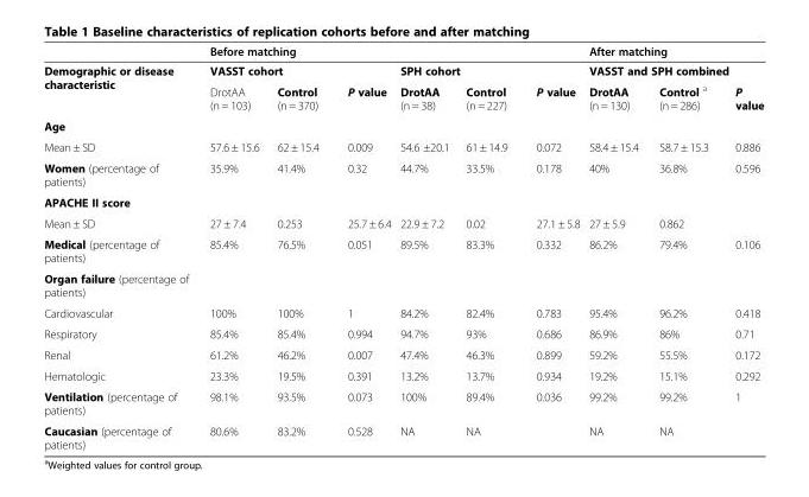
<table><thead><tr><td rowspan="3">Demographic or disease characteristic</td><td colspan="6">Before matching</td><td rowspan="2" colspan="3">After matching VASST and SPH combined</td></tr><tr><td colspan="3">VASST cohort</td><td colspan="3">SPH cohort</td></tr><tr><td>DrotAA (n = 103)</td><td>Control (n = 370)</td><td>P value</td><td>DrotAA (n = 38)</td><td>Control (n = 227)</td><td>P value</td><td>DrotAA (n = 130)</td><td>Control <sup>a</sup> (n = 286)</td><td>P value</td></tr></thead><tbody><tr><td colspan="10">Age</td></tr><tr><td>Mean ± SD</td><td>57.6 ± 15.6</td><td>62 ± 15.4</td><td>0.009</td><td>54.6 ±20.1</td><td>61 ± 14.9</td><td>0.072</td><td>58.4 ± 15.4</td><td>58.7 ± 15.3</td><td>0.886</td></tr><tr><td>Women (percentage of patients)</td><td>35.9%</td><td>41.4%</td><td>0.32</td><td>44.7%</td><td>33.5%</td><td>0.178</td><td>40%</td><td>36.8%</td><td>0.596</td></tr><tr><td colspan="10">APACHE II score</td></tr><tr><td>Mean ± SD</td><td>27 ± 7.4</td><td>0.253</td><td>25.7 ± 6.4</td><td>22.9 ± 7.2</td><td>0.02</td><td>27.1 ± 5.8</td><td>27 ± 5.9</td><td>0.862</td><td></td></tr><tr><td>Medical (percentage of patients)</td><td>85.4%</td><td>76.5%</td><td>0.051</td><td>89.5%</td><td>83.3%</td><td>0.332</td><td>86.2%</td><td>79.4%</td><td>0.106</td></tr><tr><td colspan="10">Organ failure (percentage of patients)</td></tr><tr><td>Cardiovascular</td><td>100%</td><td>100%</td><td>1</td><td>84.2%</td><td>82.4%</td><td>0.783</td><td>95.4%</td><td>96.2%</td><td>0.418</td></tr><tr><td>Respiratory</td><td>85.4%</td><td>85.4%</td><td>0.994</td><td>94.7%</td><td>93%</td><td>0.686</td><td>86.9%</td><td>86%</td><td>0.71</td></tr><tr><td>Renal</td><td>61.2%</td><td>46.2%</td><td>0.007</td><td>47.4%</td><td>46.3%</td><td>0.899</td><td>59.2%</td><td>55.5%</td><td>0.172</td></tr><tr><td>Hematologic</td><td>23.3%</td><td>19.5%</td><td>0.391</td><td>13.2%</td><td>13.7%</td><td>0.934</td><td>19.2%</td><td>15.1%</td><td>0.292</td></tr><tr><td>Ventilation (percentage of patients)</td><td>98.1%</td><td>93.5%</td><td>0.073</td><td>100%</td><td>89.4%</td><td>0.036</td><td>99.2%</td><td>99.2%</td><td>1</td></tr><tr><td>Caucasian (percentage of patients)</td><td>80.6%</td><td>83.2%</td><td>0.528</td><td>NA</td><td>NA</td><td></td><td>NA</td><td>NA</td><td></td></tr></tbody></table>